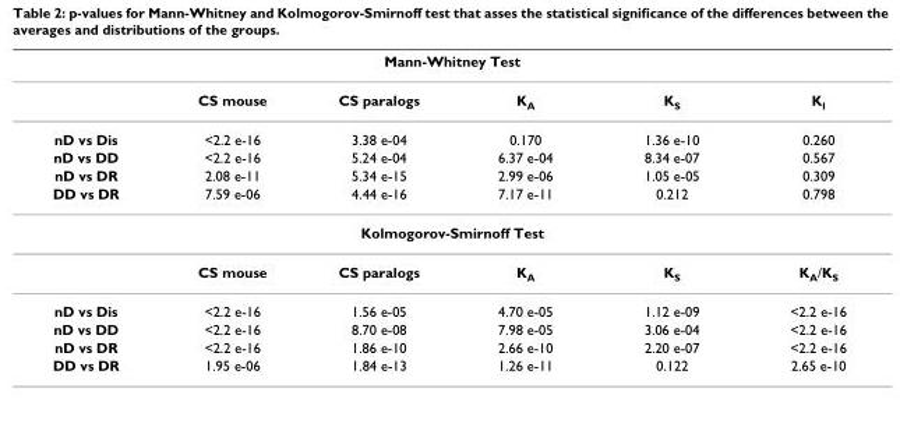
<table><thead><tr><td colspan="6">Mann-Whitney Test</td></tr><tr><td></td><td>CS mouse</td><td>CS paralogs</td><td>KA</td><td>KS</td><td>KI</td></tr></thead><tbody><tr><td>nD vs Dis</td><td>&lt;2.2 e-16</td><td>3.38 e-04</td><td>0.170</td><td>1.36 e-10</td><td>0.260</td></tr><tr><td>nD vs DD</td><td>&lt;2.2 e-16</td><td>5.24 e-04</td><td>6.37 e-04</td><td>8.34 e-07</td><td>0.567</td></tr><tr><td>nD vs DR</td><td>2.08 e-11</td><td>5.34 e-15</td><td>2.99 e-06</td><td>1.05 e-05</td><td>0.309</td></tr><tr><td>DD vs DR</td><td>7.59 e-06</td><td>4.44 e-16</td><td>7.17 e-11</td><td>0.212</td><td>0.798</td></tr><tr><td colspan="6">Kolmogorov-Smirnoff Test</td></tr><tr><td></td><td>CS mouse</td><td>CS paralogs</td><td>KA</td><td>KS</td><td>KA/KS</td></tr><tr><td>nD vs Dis</td><td>&lt;2.2 e-16</td><td>1.56 e-05</td><td>4.70 e-05</td><td>1.12 e-09</td><td>&lt;2.2 e-16</td></tr><tr><td>nD vs DD</td><td>&lt;2.2 e-16</td><td>8.70 e-08</td><td>7.98 e-05</td><td>3.06 e-04</td><td>&lt;2.2 e-16</td></tr><tr><td>nD vs DR</td><td>&lt;2.2 e-16</td><td>1.86 e-10</td><td>2.66 e-10</td><td>2.20 e-07</td><td>&lt;2.2 e-16</td></tr><tr><td>DD vs DR</td><td>1.95 e-06</td><td>1.84 e-13</td><td>1.26 e-11</td><td>0.122</td><td>2.65 e-10</td></tr></tbody></table>